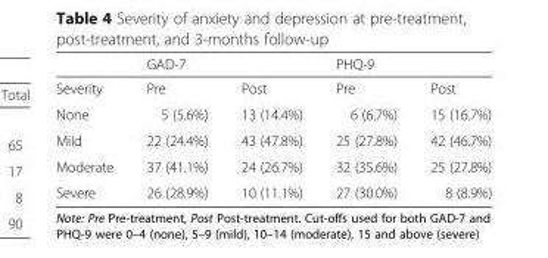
<table><thead><tr><td rowspan="2">Severity</td><td colspan="2">GAD-7</td><td colspan="2">PHQ-9</td></tr><tr><td>Pre</td><td>Post</td><td>Pre</td><td>Post</td></tr></thead><tbody><tr><td>None</td><td>5 (5.6%)</td><td>13 (14.4%)</td><td>6 (6.7%)</td><td>15 (16.7%)</td></tr><tr><td>Mild</td><td>22 (24.4%)</td><td>43 (47.8%)</td><td>25 (27.8%)</td><td>42 (46.7%)</td></tr><tr><td>Moderate</td><td>37 (41.1%)</td><td>24 (26.7%)</td><td>32 (35.6%)</td><td>25 (27.8%)</td></tr><tr><td>Severe</td><td>26 (28.9%)</td><td>10 (11.1%)</td><td>27 (30.0%)</td><td>8 (8.9%)</td></tr></tbody></table>